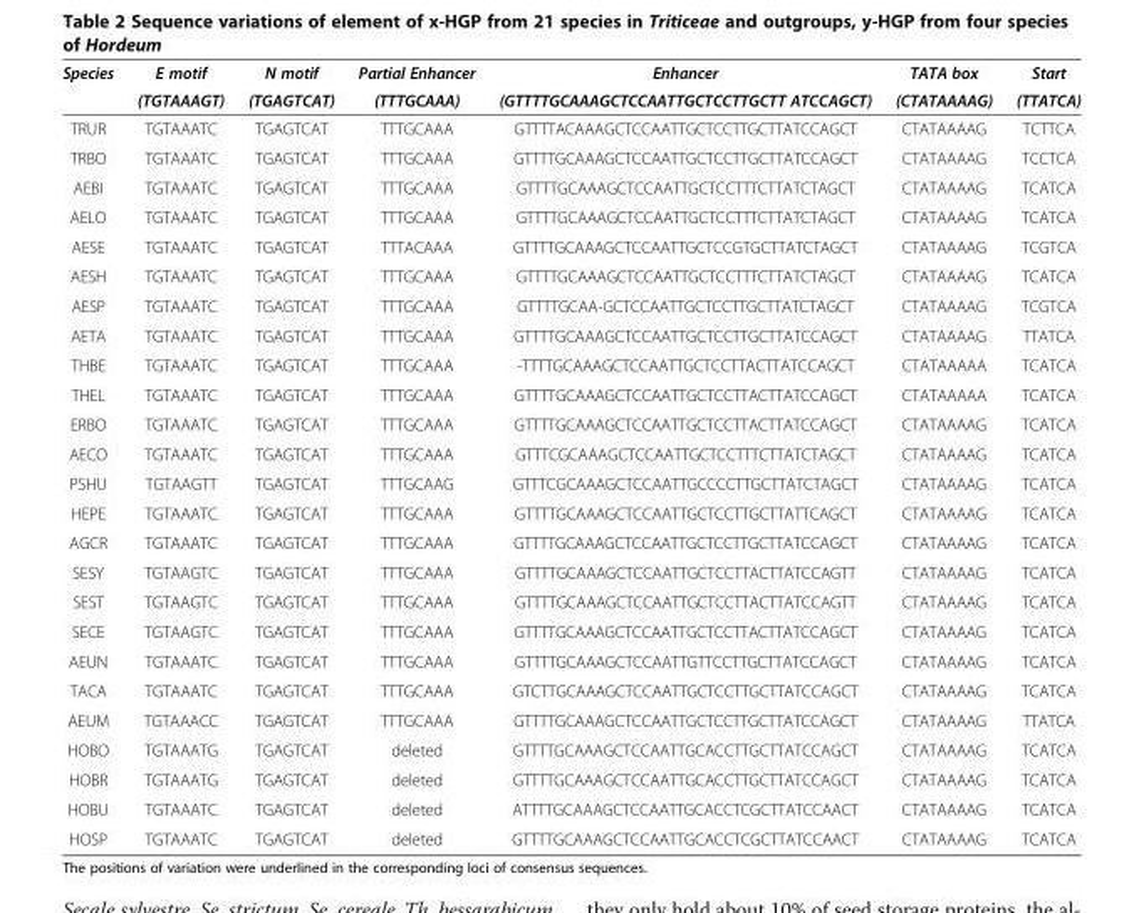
<table><thead><tr><td rowspan="2">Species</td><td rowspan="2">E motif (TGTAAAGT)</td><td rowspan="2">N motif (TGAGTCAT)</td><td rowspan="2">Partial Enhancer (TTTGCAAA)</td><td rowspan="2">Enhancer (GTTTTGCAAAGCTCCAATTGCTCCTTGCTT ATCCAGCT)</td><td rowspan="2">TATA box (CTATAAAAG)</td><td rowspan="2">Start (TTATCA)</td></tr><tr></tr></thead><tbody><tr><td>TRUR</td><td>TGTAAATC</td><td>TGAGTCAT</td><td>TTTGCAAA</td><td>GTTTTACAAAGCTCCAATTGCTCCTTGCTTATCCAGCT</td><td>CTATAAAAG</td><td>TCTTCA</td></tr><tr><td>TRBO</td><td>TGTAAATC</td><td>TGAGTCAT</td><td>TTTGCAAA</td><td>GTTTTGCAAAGCTCCAATTGCTCCTTGCTTATCCAGCT</td><td>CTATAAAAG</td><td>TCCTCA</td></tr><tr><td>AEBI</td><td>TGTAAATC</td><td>TGAGTCAT</td><td>TTTGCAAA</td><td>GTTTTGCAAAGCTCCAATTGCTCCTTTCTTATCTAGCT</td><td>CTATAAAAG</td><td>TCATCA</td></tr><tr><td>AELO</td><td>TGTAAATC</td><td>TGAGTCAT</td><td>TTTGCAAA</td><td>GTTTTGCAAAGCTCCAATTGCTCCTTTCTTATCTAGCT</td><td>CTATAAAAG</td><td>TCATCA</td></tr><tr><td>AESE</td><td>TGTAAATC</td><td>TGAGTCAT</td><td>TTTACAAA</td><td>GTTTTGCAAAGCTCCAATTGCTCCGTGCTTATCTAGCT</td><td>CTATAAAAG</td><td>TCGTCA</td></tr><tr><td>AESH</td><td>TGTAAATC</td><td>TGAGTCAT</td><td>TTTGCAAA</td><td>GTTTTGCAAAGCTCCAATTGCTCCTTTCTTATCTAGCT</td><td>CTATAAAAG</td><td>TCATCA</td></tr><tr><td>AESP</td><td>TGTAAATC</td><td>TGAGTCAT</td><td>TTTGCAAA</td><td>GTTTTGCAA-GCTCCAATTGCTCCTTGCTTATCTAGCT</td><td>CTATAAAAG</td><td>TCGTCA</td></tr><tr><td>AETA</td><td>TGTAAATC</td><td>TGAGTCAT</td><td>TTTGCAAA</td><td>GTTTTGCAAAGCTCCAATTGCTCCTTGCTTATCCAGCT</td><td>CTATAAAAG</td><td>TTATCA</td></tr><tr><td>THBE</td><td>TGTAAATC</td><td>TGAGTCAT</td><td>TTTGCAAA</td><td>-TTTTGCAAAGCTCCAATTGCTCCTTACTTATCCAGCT</td><td>CTATAAAAA</td><td>TCATCA</td></tr><tr><td>THEL</td><td>TGTAAATC</td><td>TGAGTCAT</td><td>TTTGCAAA</td><td>GTTTTGCAAAGCTCCAATTGCTCCTTACTTATCCAGCT</td><td>CTATAAAAA</td><td>TCATCA</td></tr><tr><td>ERBO</td><td>TGTAAATC</td><td>TGAGTCAT</td><td>TTTGCAAA</td><td>GTTTTGCAAAGCTCCAATTGCTCCTTACTTATCCAGCT</td><td>CTATAAAAG</td><td>TCATCA</td></tr><tr><td>AECO</td><td>TGTAAATC</td><td>TGAGTCAT</td><td>TTTGCAAA</td><td>GTTTCGCAAAGCTCCAATTGCTCCTTTCTTATCTAGCT</td><td>CTATAAAAG</td><td>TCATCA</td></tr><tr><td>PSHU</td><td>TGTAAGTT</td><td>TGAGTCAT</td><td>TTTGCAAG</td><td>GTTTCGCAAAGCTCCAATTGCCCCTTGCTTATCTAGCT</td><td>CTATAAAAG</td><td>TCATCA</td></tr><tr><td>HEPE</td><td>TGTAAATC</td><td>TGAGTCAT</td><td>TTTGCAAA</td><td>GTTTTGCAAAGCTCCAATTGCTCCTTGCTTATTCAGCT</td><td>CTATAAAAG</td><td>TCATCA</td></tr><tr><td>AGCR</td><td>TGTAAATC</td><td>TGAGTCAT</td><td>TTTGCAAA</td><td>GTTTTGCAAAGCTCCAATTGCTCCTTGCTTATCCAGCT</td><td>CTATAAAAG</td><td>TCATCA</td></tr><tr><td>SESY</td><td>TGTAAGTC</td><td>TGAGTCAT</td><td>TTTGCAAA</td><td>GTTTTGCAAAGCTCCAATTGCTCCTTACTTATCCAGTT</td><td>CTATAAAAG</td><td>TCATCA</td></tr><tr><td>SEST</td><td>TGTAAGTC</td><td>TGAGTCAT</td><td>TTTGCAAA</td><td>GTTTTGCAAAGCTCCAATTGCTCCTTACTTATCCAGTT</td><td>CTATAAAAG</td><td>TCATCA</td></tr><tr><td>SECE</td><td>TGTAAGTC</td><td>TGAGTCAT</td><td>TTTGCAAA</td><td>GTTTTGCAAAGCTCCAATTGCTCCTTACTTATCCAGCT</td><td>CTATAAAAG</td><td>TCATCA</td></tr><tr><td>AEUN</td><td>TGTAAATC</td><td>TGAGTCAT</td><td>TTTGCAAA</td><td>GTTTTGCAAAGCTCCAATTGTTCCTTGCTTATCCAGCT</td><td>CTATAAAAG</td><td>TCATCA</td></tr><tr><td>TACA</td><td>TGTAAATC</td><td>TGAGTCAT</td><td>TTTGCAAA</td><td>GTCTTGCAAAGCTCCAATTGCTCCTTGCTTATCCAGCT</td><td>CTATAAAAG</td><td>TCATCA</td></tr><tr><td>AEUM</td><td>TGTAAACC</td><td>TGAGTCAT</td><td>TTTGCAAA</td><td>GTTTTGCAAAGCTCCAATTGCTCCTTGCTTATCCAGCT</td><td>CTATAAAAG</td><td>TTATCA</td></tr><tr><td>HOBO</td><td>TGTAAATG</td><td>TGAGTCAT</td><td>deleted</td><td>GTTTTGCAAAGCTCCAATTGCACCTTGCTTATCCAGCT</td><td>CTATAAAAG</td><td>TCATCA</td></tr><tr><td>HOBR</td><td>TGTAAATG</td><td>TGAGTCAT</td><td>deleted</td><td>GTTTTGCAAAGCTCCAATTGCACCTTGCTTATCCAGCT</td><td>CTATAAAAG</td><td>TCATCA</td></tr><tr><td>HOBU</td><td>TGTAAATC</td><td>TGAGTCAT</td><td>deleted</td><td>ATTTTGCAAAGCTCCAATTGCACCTCGCTTATCCAACT</td><td>CTATAAAAG</td><td>TCATCA</td></tr><tr><td>HOSP</td><td>TGTAAATC</td><td>TGAGTCAT</td><td>deleted</td><td>GTTTTGCAAAGCTCCAATTGCACCTCGCTTATCCAACT</td><td>CTATAAAAG</td><td>TCATCA</td></tr></tbody></table>